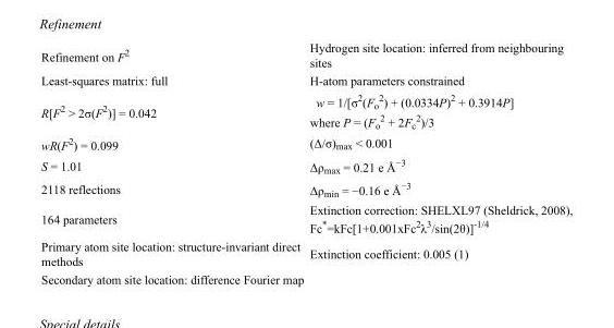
<table><tbody><tr><td>Refinement on F<sup>2</sup></td><td>Hydrogen site location: inferred from neighbouring sites</td></tr><tr><td>Least-squares matrix: full</td><td>H-atom parameters constrained</td></tr><tr><td>R[F<sup>2</sup> &gt; 2σ(F<sup>2</sup>)] = 0.042</td><td>w = 1/[σ<sup>2</sup>(F<sub>o</sub> <sup>2</sup>) + (0.0334P)<sup>2</sup> + 0.3914P] where P = (F<sub>o</sub> <sup>2</sup> + 2F<sub>c</sub> <sup>2</sup>)/3</td></tr><tr><td>wR(F<sup>2</sup>) = 0.099</td><td>(Δ/σ)<sub>max</sub> &lt; 0.001</td></tr><tr><td>S = 1.01</td><td>Δρ<sub>max</sub> = 0.21 e Å<sup>−3</sup></td></tr><tr><td>2118 reflections</td><td>Δρ<sub>min</sub> = −0.16 e Å<sup>−3</sup></td></tr><tr><td>164 parameters</td><td>Extinction correction: SHELXL97 (Sheldrick, 2008), Fc*=kFc[1+0.001xFc<sup>2</sup>λ<sup>3</sup>/sin(2θ)]<sup>-1/4</sup></td></tr><tr><td>Primary atom site location: structure-invariant direct methods</td><td>Extinction coefficient: 0.005 (1)</td></tr><tr><td>Secondary atom site location: difference Fourier map</td><td></td></tr></tbody></table>